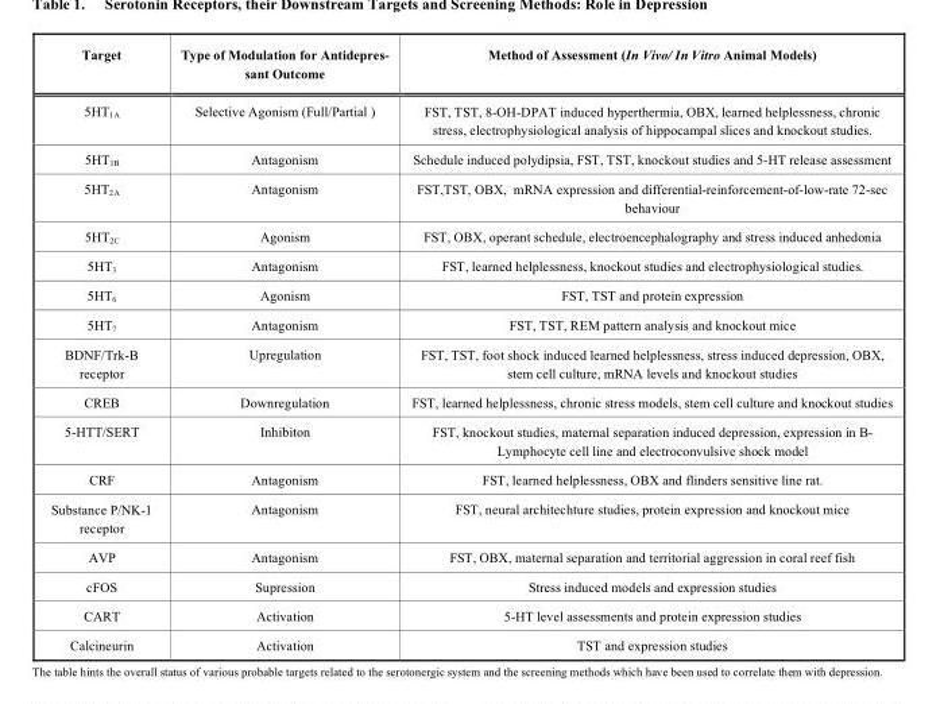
<table><thead><tr><td>Target</td><td>Type of Modulation for Antidepres- sant Outcome</td><td>Method of Assessment (In Vivo/ In Vitro Animal Models)</td></tr></thead><tbody><tr><td>5HT<sub>1A</sub></td><td>Selective Agonism (Full/Partial )</td><td>FST, TST, 8-OH-DPAT induced hyperthermia, OBX, learned helplessness, chronic stress, electrophysiological analysis of hippocampal slices and knockout studies.</td></tr><tr><td>5HT<sub>1B</sub></td><td>Antagonism</td><td>Schedule induced polydipsia, FST, TST, knockout studies and 5-HT release assessment</td></tr><tr><td>5HT<sub>2A</sub></td><td>Antagonism</td><td>FST,TST, OBX, mRNA expression and differential-reinforcement-of-low-rate 72-sec behaviour</td></tr><tr><td>5HT<sub>2C</sub></td><td>Agonism</td><td>FST, OBX, operant schedule, electroencephalography and stress induced anhedonia</td></tr><tr><td>5HT<sub>3</sub></td><td>Antagonism</td><td>FST, learned helplessness, knockout studies and electrophysiological studies.</td></tr><tr><td>5HT<sub>6</sub></td><td>Agonism</td><td>FST, TST and protein expression</td></tr><tr><td>5HT<sub>7</sub></td><td>Antagonism</td><td>FST, TST, REM pattern analysis and knockout mice</td></tr><tr><td>BDNF/Trk-B receptor</td><td>Upregulation</td><td>FST, TST, foot shock induced learned helplessness, stress induced depression, OBX, stem cell culture, mRNA levels and knockout studies</td></tr><tr><td>CREB</td><td>Downregulation</td><td>FST, learned helplessness, chronic stress models, stem cell culture and knockout studies</td></tr><tr><td>5-HTT/SERT</td><td>Inhibiton</td><td>FST, knockout studies, maternal separation induced depression, expression in B- Lymphocyte cell line and electroconvulsive shock model</td></tr><tr><td>CRF</td><td>Antagonism</td><td>FST, learned helplessness, OBX and flinders sensitive line rat.</td></tr><tr><td>Substance P/NK-1 receptor</td><td>Antagonism</td><td>FST, neural architechture studies, protein expression and knockout mice</td></tr><tr><td>AVP</td><td>Antagonism</td><td>FST, OBX, maternal separation and territorial aggression in coral reef fish</td></tr><tr><td>cFOS</td><td>Supression</td><td>Stress induced models and expression studies</td></tr><tr><td>CART</td><td>Activation</td><td>5-HT level assessments and protein expression studies</td></tr><tr><td>Calcineurin</td><td>Activation</td><td>TST and expression studies</td></tr></tbody></table>